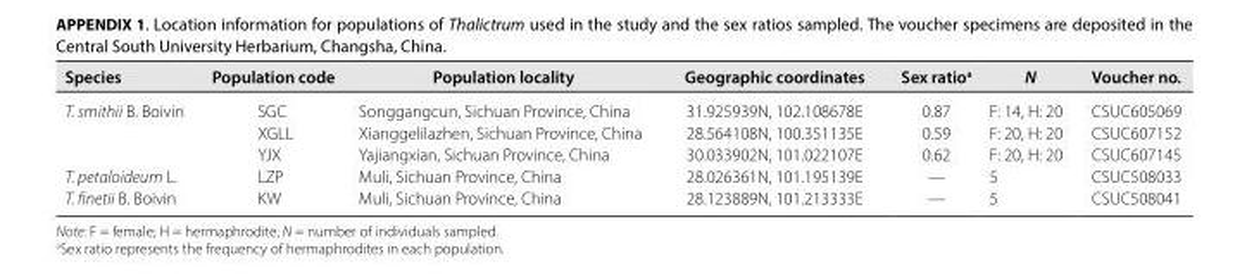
<table><thead><tr><td>Species</td><td>Population code</td><td>Population locality</td><td>Geographic coordinates</td><td>Sex ratio<sup>a</sup></td><td>N</td><td>Voucher no.</td></tr></thead><tbody><tr><td rowspan="3">T. smithii B. Boivin</td><td>SGC</td><td>Songgangcun, Sichuan Province, China</td><td>31.925939N, 102.108678E</td><td>0.87</td><td>F: 14, H: 20</td><td>CSUC605069</td></tr><tr><td>XGLL</td><td>Xianggelilazhen, Sichuan Province, China</td><td>28.564108N, 100.351135E</td><td>0.59</td><td>F: 20, H: 20</td><td>CSUC607152</td></tr><tr><td>YJX</td><td>Yajiangxian, Sichuan Province, China</td><td>30.033902N, 101.022107E</td><td>0.62</td><td>F: 20, H: 20</td><td>CSUC607145</td></tr><tr><td>T. petaloideum L.</td><td>LZP</td><td>Muli, Sichuan Province, China</td><td>28.026361N, 101.195139E</td><td>—</td><td>5</td><td>CSUC508033</td></tr><tr><td>T. finetii B. Boivin</td><td>KW</td><td>Muli, Sichuan Province, China</td><td>28.123889N, 101.213333E</td><td>—</td><td>5</td><td>CSUC508041</td></tr></tbody></table>